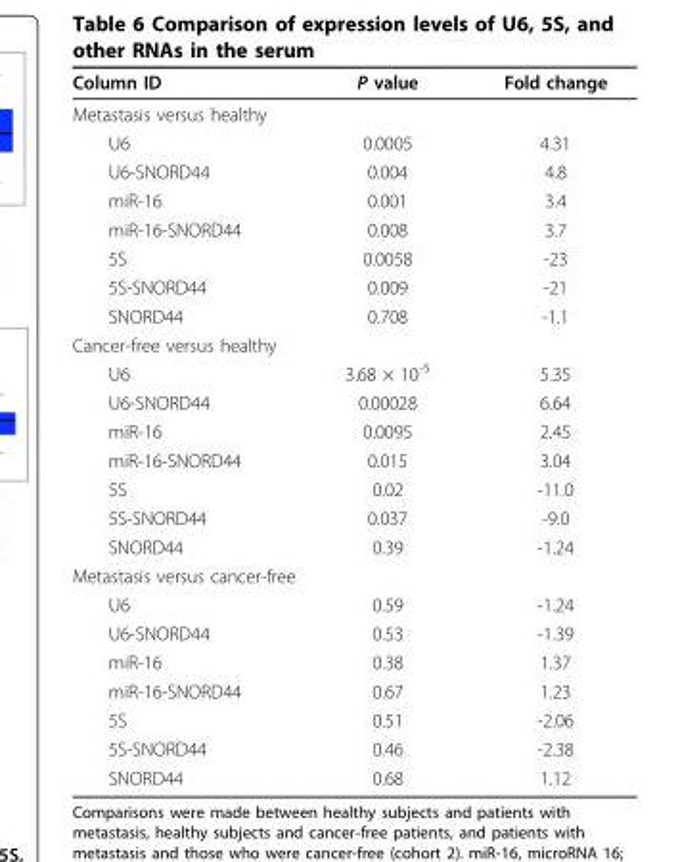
<table><thead><tr><td>Column ID</td><td>P value</td><td>Fold change</td></tr></thead><tbody><tr><td colspan="3">Metastasis versus healthy</td></tr><tr><td>U6</td><td>0.0005</td><td>4.31</td></tr><tr><td>U6-SNORD44</td><td>0.004</td><td>4.8</td></tr><tr><td>miR-16</td><td>0.001</td><td>3.4</td></tr><tr><td>miR-16-SNORD44</td><td>0.008</td><td>3.7</td></tr><tr><td>5S</td><td>0.0058</td><td>-23</td></tr><tr><td>5S-SNORD44</td><td>0.009</td><td>-21</td></tr><tr><td>SNORD44</td><td>0.708</td><td>-1.1</td></tr><tr><td colspan="3">Cancer-free versus healthy</td></tr><tr><td>U6</td><td>3.68 × 10<sup>-5</sup></td><td>5.35</td></tr><tr><td>U6-SNORD44</td><td>0.00028</td><td>6.64</td></tr><tr><td>miR-16</td><td>0.0095</td><td>2.45</td></tr><tr><td>miR-16-SNORD44</td><td>0.015</td><td>3.04</td></tr><tr><td>5S</td><td>0.02</td><td>-11.0</td></tr><tr><td>5S-SNORD44</td><td>0.037</td><td>-9.0</td></tr><tr><td>SNORD44</td><td>0.39</td><td>-1.24</td></tr><tr><td colspan="3">Metastasis versus cancer-free</td></tr><tr><td>U6</td><td>0.59</td><td>-1.24</td></tr><tr><td>U6-SNORD44</td><td>0.53</td><td>-1.39</td></tr><tr><td>miR-16</td><td>0.38</td><td>1.37</td></tr><tr><td>miR-16-SNORD44</td><td>0.67</td><td>1.23</td></tr><tr><td>5S</td><td>0.51</td><td>-2.06</td></tr><tr><td>5S-SNORD44</td><td>0.46</td><td>-2.38</td></tr><tr><td>SNORD44</td><td>0.68</td><td>1.12</td></tr></tbody></table>